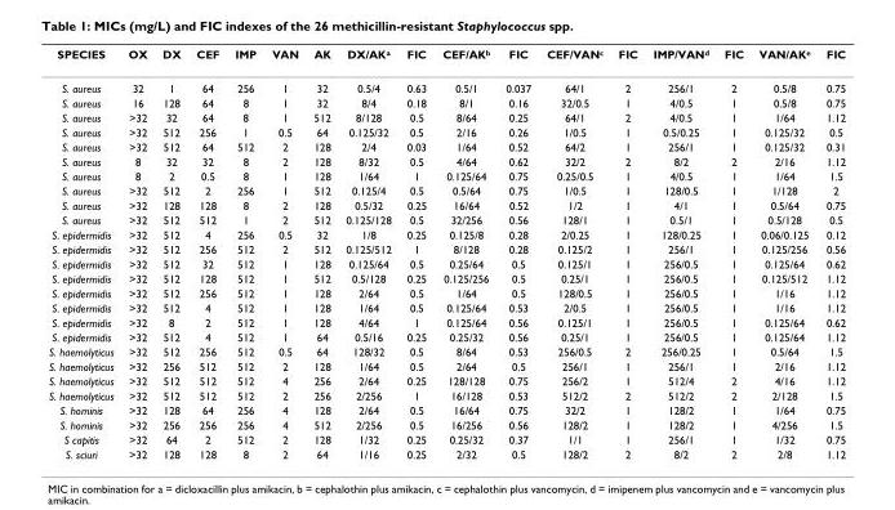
<table><thead><tr><td>SPECIES</td><td>OX</td><td>DX</td><td>CEF</td><td>IMP</td><td>VAN</td><td>AK</td><td>DX/AK<sup>a</sup></td><td>FIC</td><td>CEF/AK<sup>b</sup></td><td>FIC</td><td>CEF/VAN<sup>c</sup></td><td>FIC</td><td>IMP/VAN<sup>d</sup></td><td>FIC</td><td>VAN/AK<sup>e</sup></td><td>FIC</td></tr></thead><tbody><tr><td>S. aureus</td><td>32</td><td>1</td><td>64</td><td>256</td><td>1</td><td>32</td><td>0.5/4</td><td>0.63</td><td>0.5/1</td><td>0.037</td><td>64/1</td><td>2</td><td>256/1</td><td>2</td><td>0.5/8</td><td>0.75</td></tr><tr><td>S. aureus</td><td>16</td><td>128</td><td>64</td><td>8</td><td>1</td><td>32</td><td>8/4</td><td>0.18</td><td>8/1</td><td>0.16</td><td>32/0.5</td><td>1</td><td>4/0.5</td><td>1</td><td>0.5/8</td><td>0.75</td></tr><tr><td>S. aureus</td><td>&gt;32</td><td>32</td><td>64</td><td>8</td><td>1</td><td>512</td><td>8/128</td><td>0.5</td><td>8/64</td><td>0.25</td><td>64/1</td><td>2</td><td>4/0.5</td><td>1</td><td>1/64</td><td>1.12</td></tr><tr><td>S. aureus</td><td>&gt;32</td><td>512</td><td>256</td><td>1</td><td>0.5</td><td>64</td><td>0.125/32</td><td>0.5</td><td>2/16</td><td>0.26</td><td>1/0.5</td><td>1</td><td>0.5/0.25</td><td>1</td><td>0.125/32</td><td>0.5</td></tr><tr><td>S. aureus</td><td>&gt;32</td><td>512</td><td>64</td><td>512</td><td>2</td><td>128</td><td>2/4</td><td>0.03</td><td>1/64</td><td>0.52</td><td>64/2</td><td>1</td><td>256/1</td><td>1</td><td>0.125/32</td><td>0.31</td></tr><tr><td>S. aureus</td><td>8</td><td>32</td><td>32</td><td>8</td><td>2</td><td>128</td><td>8/32</td><td>0.5</td><td>4/64</td><td>0.62</td><td>32/2</td><td>2</td><td>8/2</td><td>2</td><td>2/16</td><td>1.12</td></tr><tr><td>S. aureus</td><td>8</td><td>2</td><td>0.5</td><td>8</td><td>1</td><td>128</td><td>1/64</td><td>1</td><td>0.125/64</td><td>0.75</td><td>0.25/0.5</td><td>1</td><td>4/0.5</td><td>1</td><td>1/64</td><td>1.5</td></tr><tr><td>S. aureus</td><td>&gt;32</td><td>512</td><td>2</td><td>256</td><td>1</td><td>512</td><td>0.125/4</td><td>0.5</td><td>0.5/64</td><td>0.75</td><td>1/0.5</td><td>1</td><td>128/0.5</td><td>1</td><td>1/128</td><td>2</td></tr><tr><td>S. aureus</td><td>&gt;32</td><td>128</td><td>128</td><td>8</td><td>2</td><td>128</td><td>0.5/32</td><td>0.25</td><td>16/64</td><td>0.52</td><td>1/2</td><td>1</td><td>4/1</td><td>1</td><td>0.5/64</td><td>0.75</td></tr><tr><td>S. aureus</td><td>&gt;32</td><td>512</td><td>512</td><td>1</td><td>2</td><td>512</td><td>0.125/128</td><td>0.5</td><td>32/256</td><td>0.56</td><td>128/1</td><td>1</td><td>0.5/1</td><td>1</td><td>0.5/128</td><td>0.5</td></tr><tr><td>S. epidermidis</td><td>&gt;32</td><td>512</td><td>4</td><td>256</td><td>0.5</td><td>32</td><td>1/8</td><td>0.25</td><td>0.125/8</td><td>0.28</td><td>2/0.25</td><td>1</td><td>128/0.25</td><td>1</td><td>0.06/0.125</td><td>0.12</td></tr><tr><td>S. epidermidis</td><td>&gt;32</td><td>512</td><td>256</td><td>512</td><td>2</td><td>512</td><td>0.125/512</td><td>1</td><td>8/128</td><td>0.28</td><td>0.125/2</td><td>1</td><td>256/1</td><td>1</td><td>0.125/256</td><td>0.56</td></tr><tr><td>S. epidermidis</td><td>&gt;32</td><td>512</td><td>32</td><td>512</td><td>1</td><td>128</td><td>0.125/64</td><td>0.5</td><td>0.25/64</td><td>0.5</td><td>0.125/1</td><td>1</td><td>256/0.5</td><td>1</td><td>0.125/64</td><td>0.62</td></tr><tr><td>S. epidermidis</td><td>&gt;32</td><td>512</td><td>128</td><td>512</td><td>1</td><td>512</td><td>0.5/128</td><td>0.25</td><td>0.125/256</td><td>0.5</td><td>0.25/1</td><td>1</td><td>256/0.5</td><td>1</td><td>0.125/512</td><td>1.12</td></tr><tr><td>S. epidermidis</td><td>&gt;32</td><td>512</td><td>256</td><td>512</td><td>1</td><td>128</td><td>2/64</td><td>0.5</td><td>1/64</td><td>0.5</td><td>128/0.5</td><td>1</td><td>256/0.5</td><td>1</td><td>1/16</td><td>1.12</td></tr><tr><td>S. epidermidis</td><td>&gt;32</td><td>512</td><td>4</td><td>512</td><td>1</td><td>128</td><td>1/64</td><td>0.5</td><td>0.125/64</td><td>0.53</td><td>2/0.5</td><td>1</td><td>256/0.5</td><td>1</td><td>1/16</td><td>1.12</td></tr><tr><td>S. epidermidis</td><td>&gt;32</td><td>8</td><td>2</td><td>512</td><td>1</td><td>128</td><td>4/64</td><td>1</td><td>0.125/64</td><td>0.56</td><td>0.125/1</td><td>1</td><td>256/0.5</td><td>1</td><td>0.125/64</td><td>0.62</td></tr><tr><td>S. epidermidis</td><td>&gt;32</td><td>512</td><td>4</td><td>512</td><td>1</td><td>64</td><td>0.5/16</td><td>0.25</td><td>0.25/32</td><td>0.56</td><td>0.25/1</td><td>1</td><td>256/0.5</td><td>1</td><td>0.125/64</td><td>1.12</td></tr><tr><td>S. haemolyticus</td><td>&gt;32</td><td>512</td><td>256</td><td>512</td><td>0.5</td><td>64</td><td>128/32</td><td>0.5</td><td>8/64</td><td>0.53</td><td>256/0.5</td><td>2</td><td>256/0.25</td><td>1</td><td>0.5/64</td><td>1.5</td></tr><tr><td>S. haemolyticus</td><td>&gt;32</td><td>256</td><td>512</td><td>512</td><td>2</td><td>128</td><td>1/64</td><td>0.5</td><td>2/64</td><td>0.5</td><td>256/1</td><td>1</td><td>256/1</td><td>1</td><td>2/16</td><td>1.12</td></tr><tr><td>S. haemolyticus</td><td>&gt;32</td><td>512</td><td>512</td><td>512</td><td>4</td><td>256</td><td>2/64</td><td>0.25</td><td>128/128</td><td>0.75</td><td>256/2</td><td>1</td><td>512/4</td><td>2</td><td>4/16</td><td>1.12</td></tr><tr><td>S. haemolyticus</td><td>&gt;32</td><td>512</td><td>512</td><td>512</td><td>2</td><td>256</td><td>2/256</td><td>1</td><td>16/128</td><td>0.53</td><td>512/2</td><td>2</td><td>512/2</td><td>2</td><td>2/128</td><td>1.5</td></tr><tr><td>S. hominis</td><td>&gt;32</td><td>128</td><td>64</td><td>256</td><td>4</td><td>128</td><td>2/64</td><td>0.5</td><td>16/64</td><td>0.75</td><td>32/2</td><td>1</td><td>128/2</td><td>1</td><td>1/64</td><td>0.75</td></tr><tr><td>S. hominis</td><td>&gt;32</td><td>256</td><td>256</td><td>256</td><td>4</td><td>512</td><td>2/256</td><td>0.5</td><td>16/256</td><td>0.56</td><td>128/2</td><td>1</td><td>128/2</td><td>1</td><td>4/256</td><td>1.5</td></tr><tr><td>S capitis</td><td>&gt;32</td><td>64</td><td>2</td><td>512</td><td>2</td><td>128</td><td>1/32</td><td>0.25</td><td>0.25/32</td><td>0.37</td><td>1/1</td><td>1</td><td>256/1</td><td>1</td><td>1/32</td><td>0.75</td></tr><tr><td>S. sciuri</td><td>&gt;32</td><td>128</td><td>128</td><td>8</td><td>2</td><td>64</td><td>1/16</td><td>0.25</td><td>2/32</td><td>0.5</td><td>128/2</td><td>2</td><td>8/2</td><td>2</td><td>2/8</td><td>1.12</td></tr></tbody></table>